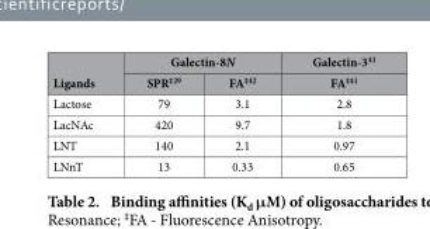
<table><thead><tr><td rowspan="2">Ligands</td><td colspan="2">Galectin-8N</td><td rowspan="2">Galectin-3<sup>41</sup> FA<sup>‡41</sup></td></tr><tr><td>SPR<sup>‡29</sup></td><td>FA<sup>‡42</sup></td></tr></thead><tbody><tr><td>Lactose</td><td>79</td><td>3.1</td><td>2.8</td></tr><tr><td>LacNAc</td><td>420</td><td>9.7</td><td>1.8</td></tr><tr><td>LNT</td><td>140</td><td>2.1</td><td>0.97</td></tr><tr><td>LNnT</td><td>13</td><td>0.33</td><td>0.65</td></tr></tbody></table>